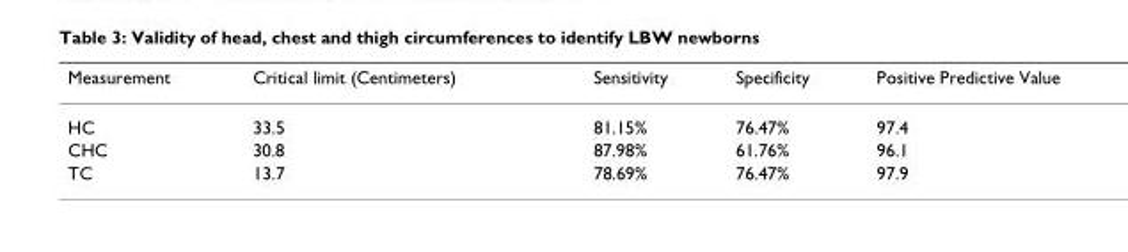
<table><thead><tr><td>Measurement</td><td>Critical limit (Centimeters)</td><td>Sensitivity</td><td>Specificity</td><td>Positive Predictive Value</td></tr></thead><tbody><tr><td>HC</td><td>33.5</td><td>81.15%</td><td>76.47%</td><td>97.4</td></tr><tr><td>CHC</td><td>30.8</td><td>87.98%</td><td>61.76%</td><td>96.1</td></tr><tr><td>TC</td><td>13.7</td><td>78.69%</td><td>76.47%</td><td>97.9</td></tr></tbody></table>